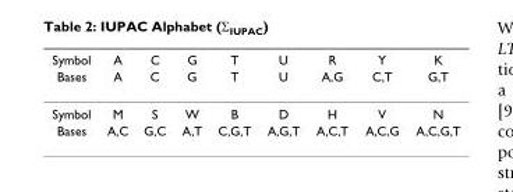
<table><thead><tr><td rowspan="2">Symbol Bases</td><td rowspan="2">A A</td><td rowspan="2">C C</td><td rowspan="2">G G</td><td rowspan="2">T T</td><td rowspan="2">U U</td><td rowspan="2">R A,G</td><td rowspan="2">Y C,T</td><td rowspan="2">K G,T</td></tr><tr></tr></thead><tbody><tr><td>Symbol</td><td>M</td><td>S</td><td>W</td><td>B</td><td>D</td><td>H</td><td>V</td><td>N</td></tr><tr><td>Bases</td><td>A,C</td><td>G,C</td><td>A,T</td><td>C,G,T</td><td>A,G,T</td><td>A,C,T</td><td>A,C,G</td><td>A,C,G,T</td></tr></tbody></table>